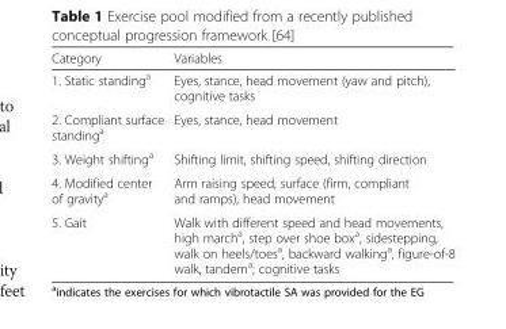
<table><thead><tr><td>Category</td><td>Variables</td></tr></thead><tbody><tr><td>1. Static standing<sup>a</sup></td><td>Eyes, stance, head movement (yaw and pitch), cognitive tasks</td></tr><tr><td>2. Compliant surface standing<sup>a</sup></td><td>Eyes, stance, head movement</td></tr><tr><td>3. Weight shifting<sup>a</sup></td><td>Shifting limit, shifting speed, shifting direction</td></tr><tr><td>4. Modified center of gravity<sup>a</sup></td><td>Arm raising speed, surface (firm, compliant and ramps), head movement</td></tr><tr><td>5. Gait</td><td>Walk with different speed and head movements, high march<sup>a</sup>, step over shoe box<sup>a</sup>, sidestepping, walk on heels/toes<sup>a</sup>, backward walking<sup>a</sup>, figure-of-8 walk, tandem<sup>a</sup>; cognitive tasks</td></tr></tbody></table>